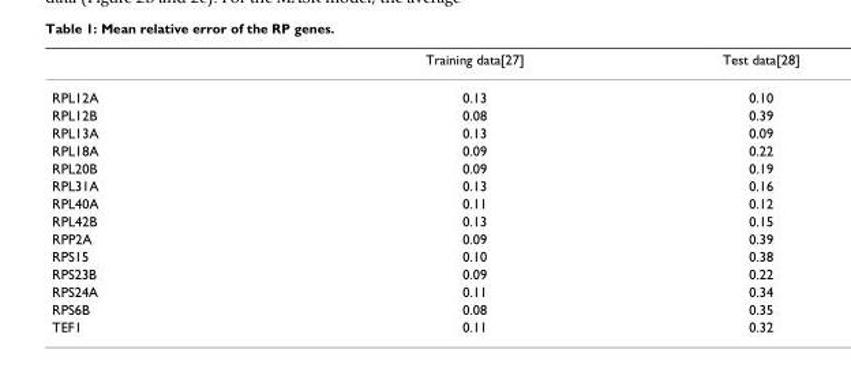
<table><thead><tr><td></td><td>Training data[27]</td><td>Test data[28]</td></tr></thead><tbody><tr><td>RPL12A</td><td>0.13</td><td>0.10</td></tr><tr><td>RPL12B</td><td>0.08</td><td>0.39</td></tr><tr><td>RPL13A</td><td>0.13</td><td>0.09</td></tr><tr><td>RPL18A</td><td>0.09</td><td>0.22</td></tr><tr><td>RPL20B</td><td>0.09</td><td>0.19</td></tr><tr><td>RPL31A</td><td>0.13</td><td>0.16</td></tr><tr><td>RPL40A</td><td>0.11</td><td>0.12</td></tr><tr><td>RPL42B</td><td>0.13</td><td>0.15</td></tr><tr><td>RPP2A</td><td>0.09</td><td>0.39</td></tr><tr><td>RPS15</td><td>0.10</td><td>0.38</td></tr><tr><td>RPS23B</td><td>0.09</td><td>0.22</td></tr><tr><td>RPS24A</td><td>0.11</td><td>0.34</td></tr><tr><td>RPS6B</td><td>0.08</td><td>0.35</td></tr><tr><td>TEF1</td><td>0.11</td><td>0.32</td></tr></tbody></table>